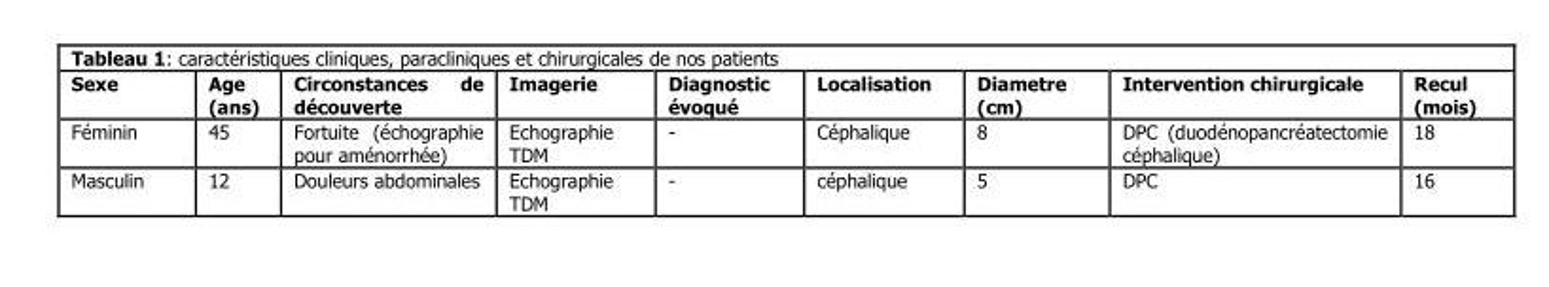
<table><thead><tr><td>Sexe</td><td>Age (ans)</td><td>Circonstances de découverte</td><td>Imagerie</td><td>Diagnostic évoqué</td><td>Localisation</td><td>Diametre (cm)</td><td>Intervention chirurgicale</td><td>Recul (mois)</td></tr></thead><tbody><tr><td>Féminin</td><td>45</td><td>Fortuite (échographie pour aménorrhée)</td><td>Echographie TDM</td><td>-</td><td>Céphalique</td><td>8</td><td>DPC (duodénopancréatectomie céphalique)</td><td>18</td></tr><tr><td>Masculin</td><td>12</td><td>Douleurs abdominales</td><td>Echographie TDM</td><td>-</td><td>céphalique</td><td>5</td><td>DPC</td><td>16</td></tr></tbody></table>